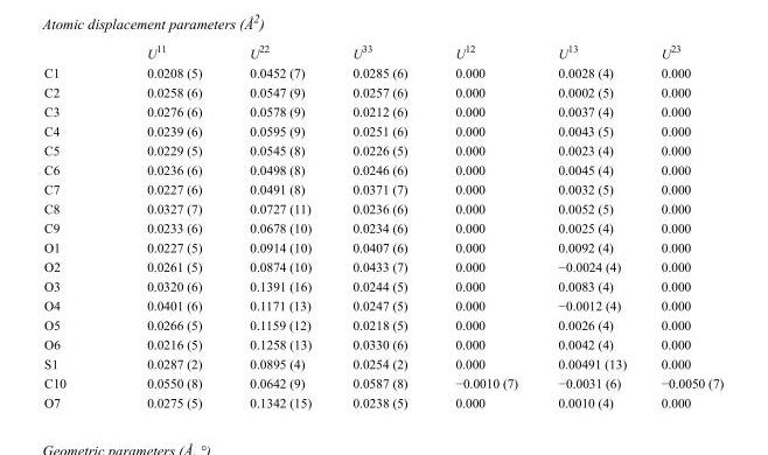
<table><thead><tr><td></td><td>U<sup>11</sup></td><td>U<sup>22</sup></td><td>U<sup>33</sup></td><td>U<sup>12</sup></td><td>U<sup>13</sup></td><td>U<sup>23</sup></td></tr></thead><tbody><tr><td>C1</td><td>0.0208 (5)</td><td>0.0452 (7)</td><td>0.0285 (6)</td><td>0.000</td><td>0.0028 (4)</td><td>0.000</td></tr><tr><td>C2</td><td>0.0258 (6)</td><td>0.0547 (9)</td><td>0.0257 (6)</td><td>0.000</td><td>0.0002 (5)</td><td>0.000</td></tr><tr><td>C3</td><td>0.0276 (6)</td><td>0.0578 (9)</td><td>0.0212 (6)</td><td>0.000</td><td>0.0037 (4)</td><td>0.000</td></tr><tr><td>C4</td><td>0.0239 (6)</td><td>0.0595 (9)</td><td>0.0251 (6)</td><td>0.000</td><td>0.0043 (5)</td><td>0.000</td></tr><tr><td>C5</td><td>0.0229 (5)</td><td>0.0545 (8)</td><td>0.0226 (5)</td><td>0.000</td><td>0.0023 (4)</td><td>0.000</td></tr><tr><td>C6</td><td>0.0236 (6)</td><td>0.0498 (8)</td><td>0.0246 (6)</td><td>0.000</td><td>0.0045 (4)</td><td>0.000</td></tr><tr><td>C7</td><td>0.0227 (6)</td><td>0.0491 (8)</td><td>0.0371 (7)</td><td>0.000</td><td>0.0032 (5)</td><td>0.000</td></tr><tr><td>C8</td><td>0.0327 (7)</td><td>0.0727 (11)</td><td>0.0236 (6)</td><td>0.000</td><td>0.0052 (5)</td><td>0.000</td></tr><tr><td>C9</td><td>0.0233 (6)</td><td>0.0678 (10)</td><td>0.0234 (6)</td><td>0.000</td><td>0.0025 (4)</td><td>0.000</td></tr><tr><td>O1</td><td>0.0227 (5)</td><td>0.0914 (10)</td><td>0.0407 (6)</td><td>0.000</td><td>0.0092 (4)</td><td>0.000</td></tr><tr><td>O2</td><td>0.0261 (5)</td><td>0.0874 (10)</td><td>0.0433 (7)</td><td>0.000</td><td>−0.0024 (4)</td><td>0.000</td></tr><tr><td>O3</td><td>0.0320 (6)</td><td>0.1391 (16)</td><td>0.0244 (5)</td><td>0.000</td><td>0.0083 (4)</td><td>0.000</td></tr><tr><td>O4</td><td>0.0401 (6)</td><td>0.1171 (13)</td><td>0.0247 (5)</td><td>0.000</td><td>−0.0012 (4)</td><td>0.000</td></tr><tr><td>O5</td><td>0.0266 (5)</td><td>0.1159 (12)</td><td>0.0218 (5)</td><td>0.000</td><td>0.0026 (4)</td><td>0.000</td></tr><tr><td>O6</td><td>0.0216 (5)</td><td>0.1258 (13)</td><td>0.0330 (6)</td><td>0.000</td><td>0.0042 (4)</td><td>0.000</td></tr><tr><td>S1</td><td>0.0287 (2)</td><td>0.0895 (4)</td><td>0.0254 (2)</td><td>0.000</td><td>0.00491 (13)</td><td>0.000</td></tr><tr><td>C10</td><td>0.0550 (8)</td><td>0.0642 (9)</td><td>0.0587 (8)</td><td>−0.0010 (7)</td><td>−0.0031 (6)</td><td>−0.0050 (7)</td></tr><tr><td>O7</td><td>0.0275 (5)</td><td>0.1342 (15)</td><td>0.0238 (5)</td><td>0.000</td><td>0.0010 (4)</td><td>0.000</td></tr></tbody></table>